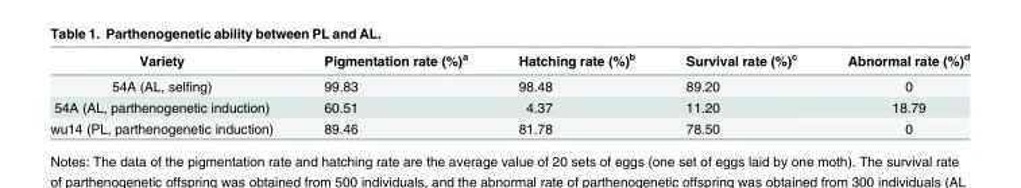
<table><thead><tr><td>Variety</td><td>Pigmentation rate (%)<sup>a</sup></td><td>Hatching rate (%)<sup>b</sup></td><td>Survival rate (%)<sup>c</sup></td><td>Abnormal rate (%)<sup>d</sup></td></tr></thead><tbody><tr><td>54A (AL, selfing)</td><td>99.83</td><td>98.48</td><td>89.20</td><td>0</td></tr><tr><td>54A (AL, parthenogenetic induction)</td><td>60.51</td><td>4.37</td><td>11.20</td><td>18.79</td></tr><tr><td>wu14 (PL, parthenogenetic induction)</td><td>89.46</td><td>81.78</td><td>78.50</td><td>0</td></tr></tbody></table>